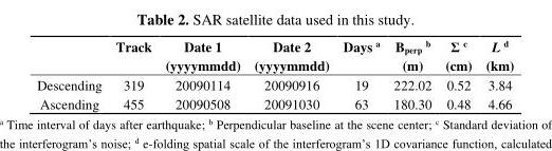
<table><thead><tr><td></td><td>Track</td><td>Date 1 (yyyymmdd)</td><td>Date 2 (yyyymmdd)</td><td>Days <sup>a</sup></td><td>B<sub>perp</sub> <sup>b</sup> (m)</td><td>Σ <sup>c</sup> (cm)</td><td>L <sup>d</sup> (km)</td></tr></thead><tbody><tr><td>Descending</td><td>319</td><td>20090114</td><td>20090916</td><td>19</td><td>222.02</td><td>0.52</td><td>3.84</td></tr><tr><td>Ascending</td><td>455</td><td>20090508</td><td>20091030</td><td>63</td><td>180.30</td><td>0.48</td><td>4.66</td></tr></tbody></table>